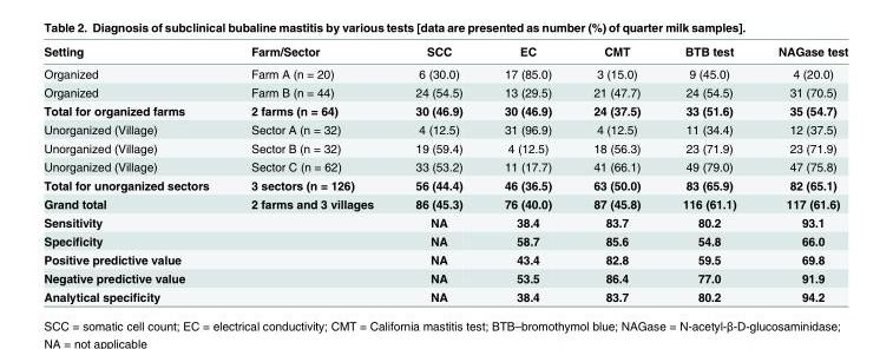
<table><thead><tr><td>Setting</td><td>Farm/Sector</td><td>SCC</td><td>EC</td><td>CMT</td><td>BTB test</td><td>NAGase test</td></tr></thead><tbody><tr><td>Organized</td><td>Farm A (n = 20)</td><td>6 (30.0)</td><td>17 (85.0)</td><td>3 (15.0)</td><td>9 (45.0)</td><td>4 (20.0)</td></tr><tr><td>Organized</td><td>Farm B (n = 44)</td><td>24 (54.5)</td><td>13 (29.5)</td><td>21 (47.7)</td><td>24 (54.5)</td><td>31 (70.5)</td></tr><tr><td>Total for organized farms</td><td>2 farms (n = 64)</td><td>30 (46.9)</td><td>30 (46.9)</td><td>24 (37.5)</td><td>33 (51.6)</td><td>35 (54.7)</td></tr><tr><td>Unorganized (Village)</td><td>Sector A (n = 32)</td><td>4 (12.5)</td><td>31 (96.9)</td><td>4 (12.5)</td><td>11 (34.4)</td><td>12 (37.5)</td></tr><tr><td>Unorganized (Village)</td><td>Sector B (n = 32)</td><td>19 (59.4)</td><td>4 (12.5)</td><td>18 (56.3)</td><td>23 (71.9)</td><td>23 (71.9)</td></tr><tr><td>Unorganized (Village)</td><td>Sector C (n = 62)</td><td>33 (53.2)</td><td>11 (17.7)</td><td>41 (66.1)</td><td>49 (79.0)</td><td>47 (75.8)</td></tr><tr><td>Total for unorganized sectors</td><td>3 sectors (n = 126)</td><td>56 (44.4)</td><td>46 (36.5)</td><td>63 (50.0)</td><td>83 (65.9)</td><td>82 (65.1)</td></tr><tr><td>Grand total</td><td>2 farms and 3 villages</td><td>86 (45.3)</td><td>76 (40.0)</td><td>87 (45.8)</td><td>116 (61.1)</td><td>117 (61.6)</td></tr><tr><td>Sensitivity</td><td></td><td>NA</td><td>38.4</td><td>83.7</td><td>80.2</td><td>93.1</td></tr><tr><td>Specificity</td><td></td><td>NA</td><td>58.7</td><td>85.6</td><td>54.8</td><td>66.0</td></tr><tr><td>Positive predictive value</td><td></td><td>NA</td><td>43.4</td><td>82.8</td><td>59.5</td><td>69.8</td></tr><tr><td>Negative predictive value</td><td></td><td>NA</td><td>53.5</td><td>86.4</td><td>77.0</td><td>91.9</td></tr><tr><td>Analytical specificity</td><td></td><td>NA</td><td>38.4</td><td>83.7</td><td>80.2</td><td>94.2</td></tr></tbody></table>